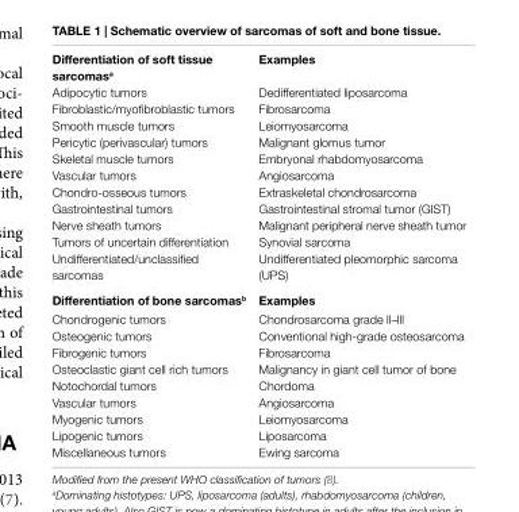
<table><tbody><tr><td>Differentiation of soft tissue sarcomas<sup>a</sup></td><td>examples</td></tr><tr><td>Adipocytic tumors</td><td>Dedifferentiated liposarcoma</td></tr><tr><td>Fibroblastic/myofibroblastic tumors</td><td>Fibrosarcoma</td></tr><tr><td>Smooth muscle tumors</td><td>Leiomyosarcoma</td></tr><tr><td>Pericytic (perivascular) tumors</td><td>Malignant glomus tumor</td></tr><tr><td>Skeletal muscle tumors</td><td>Embryonal rhabdomyosarcoma</td></tr><tr><td>Vascular tumors</td><td>Angiosarcoma</td></tr><tr><td>Chondro-osseous tumors</td><td>Extraskeletal chondrosarcoma</td></tr><tr><td>Gastrointestinal tumors</td><td>Gastrointestinal stromal tumor (GIST)</td></tr><tr><td>Nerve sheath tumors</td><td>Malignant peripheral nerve sheath tumor</td></tr><tr><td>Tumors of uncertain differentiation</td><td>Synovial sarcoma</td></tr><tr><td>Undifferentiated/unclassified sarcomas</td><td>Undifferentiated pleomorphic sarcoma (UPS)</td></tr><tr><td>Differentiation of bone sarcomas<sup>b</sup></td><td>examples</td></tr><tr><td>Chondrogenic tumors</td><td>Chondrosarcoma grade ll–lll</td></tr><tr><td>Osteogenic tumors</td><td>Conventional high-grade osteosarcoma</td></tr><tr><td>Fibrogenic tumors</td><td>Fibrosarcoma</td></tr><tr><td>Osteoclastic giant cell rich tumors</td><td>Malignancy in giant cell tumor of bone</td></tr><tr><td>Notochordal tumors</td><td>Chordoma</td></tr><tr><td>Vascular tumors</td><td>Angiosarcoma</td></tr><tr><td>Myogenic tumors</td><td>Leiomyosarcoma</td></tr><tr><td>Lipogenic tumors</td><td>Liposarcoma</td></tr><tr><td>Miscellaneous tumors</td><td>Ewing sarcoma</td></tr></tbody></table>